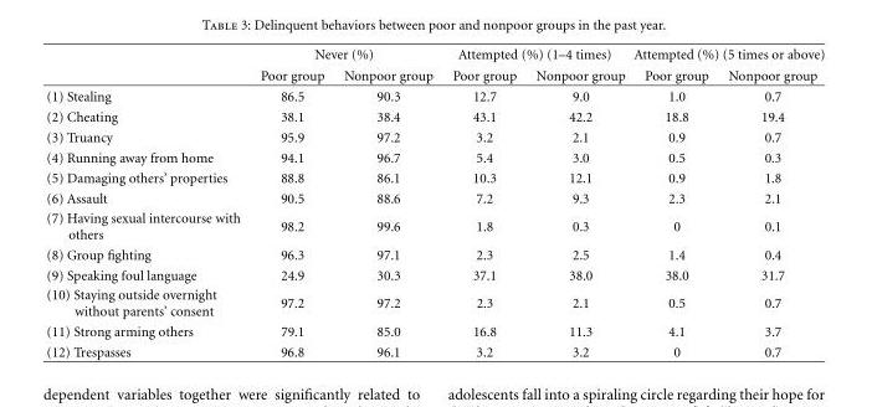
<table><thead><tr><td rowspan="2"></td><td colspan="2">Never (%)</td><td colspan="2">Attempted (%) (1–4 times)</td><td colspan="2">Attempted (%) (5 times or above)</td></tr><tr><td>Poor group</td><td>Nonpoor group</td><td>Poor group</td><td>Nonpoor group</td><td>Poor group</td><td>Nonpoor group</td></tr></thead><tbody><tr><td>(1) Stealing</td><td>86.5</td><td>90.3</td><td>12.7</td><td>9.0</td><td>1.0</td><td>0.7</td></tr><tr><td>(2) Cheating</td><td>38.1</td><td>38.4</td><td>43.1</td><td>42.2</td><td>18.8</td><td>19.4</td></tr><tr><td>(3) Truancy</td><td>95.9</td><td>97.2</td><td>3.2</td><td>2.1</td><td>0.9</td><td>0.7</td></tr><tr><td>(4) Running away from home</td><td>94.1</td><td>96.7</td><td>5.4</td><td>3.0</td><td>0.5</td><td>0.3</td></tr><tr><td>(5) Damaging others’ properties</td><td>88.8</td><td>86.1</td><td>10.3</td><td>12.1</td><td>0.9</td><td>1.8</td></tr><tr><td>(6) Assault</td><td>90.5</td><td>88.6</td><td>7.2</td><td>9.3</td><td>2.3</td><td>2.1</td></tr><tr><td>(7) Having sexual intercourse with others</td><td>98.2</td><td>99.6</td><td>1.8</td><td>0.3</td><td>0</td><td>0.1</td></tr><tr><td>(8) Group fighting</td><td>96.3</td><td>97.1</td><td>2.3</td><td>2.5</td><td>1.4</td><td>0.4</td></tr><tr><td>(9) Speaking foul language</td><td>24.9</td><td>30.3</td><td>37.1</td><td>38.0</td><td>38.0</td><td>31.7</td></tr><tr><td>(10) Staying outside overnight without parents’ consent</td><td>97.2</td><td>97.2</td><td>2.3</td><td>2.1</td><td>0.5</td><td>0.7</td></tr><tr><td>(11) Strong arming others</td><td>79.1</td><td>85.0</td><td>16.8</td><td>11.3</td><td>4.1</td><td>3.7</td></tr><tr><td>(12) Trespasses</td><td>96.8</td><td>96.1</td><td>3.2</td><td>3.2</td><td>0</td><td>0.7</td></tr></tbody></table>